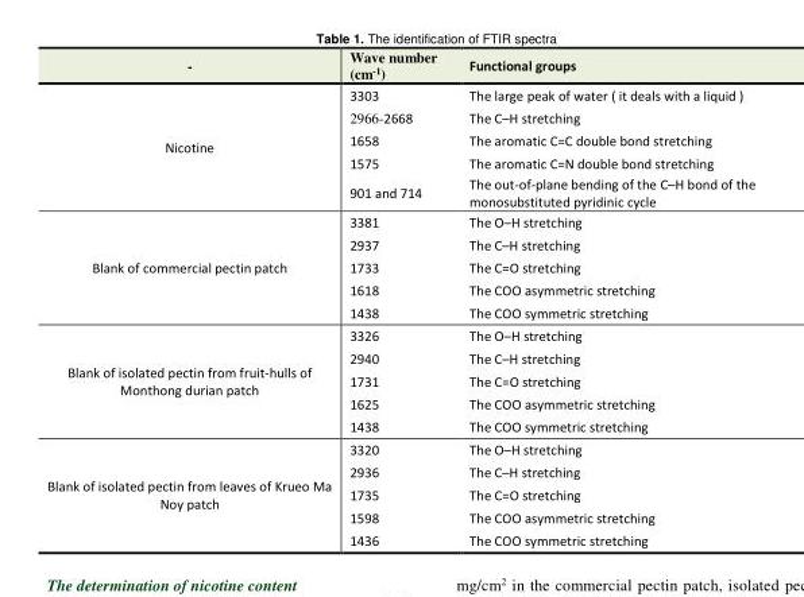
<table><tbody><tr><td>-</td><td>Wave number (cm<sup>-1</sup>)</td><td>Functional groups</td></tr><tr><td rowspan="5">Nicotine</td><td>3303</td><td>The large peak of water ( it deals with a liquid )</td></tr><tr><td>2966-2668</td><td>The C–H stretching</td></tr><tr><td>1658</td><td>The aromatic C=C double bond stretching</td></tr><tr><td>1575</td><td>The aromatic C=N double bond stretching</td></tr><tr><td>901 and 714</td><td>The out-of-plane bending of the C–H bond of the monosubstituted pyridinic cycle</td></tr><tr><td rowspan="5">Blank of commercial pectin patch</td><td>3381</td><td>The O–H stretching</td></tr><tr><td>7392</td><td>The C–H stretching</td></tr><tr><td>1733</td><td>The C=O stretching</td></tr><tr><td>1618</td><td>The COO asymmetric stretching</td></tr><tr><td>1438</td><td>The COO symmetric stretching</td></tr><tr><td rowspan="5">Blank of isolated pectin from fruit-hulls of Monthong durian patch</td><td>3326</td><td>The O–H stretching</td></tr><tr><td>2940</td><td>The C–H stretching</td></tr><tr><td>1731</td><td>The C=O stretching</td></tr><tr><td>1625</td><td>The COO asymmetric stretching</td></tr><tr><td>1438</td><td>The COO symmetric stretching</td></tr><tr><td rowspan="5">Blank of isolated pectin from leaves of Krueo Ma Noy patch</td><td>3320</td><td>The O–H stretching</td></tr><tr><td>2936</td><td>The C–H stretching</td></tr><tr><td>1735</td><td>The C=O stretching</td></tr><tr><td>1598</td><td>The COO asymmetric stretching</td></tr><tr><td>1436</td><td>The COO symmetric stretching</td></tr></tbody></table>